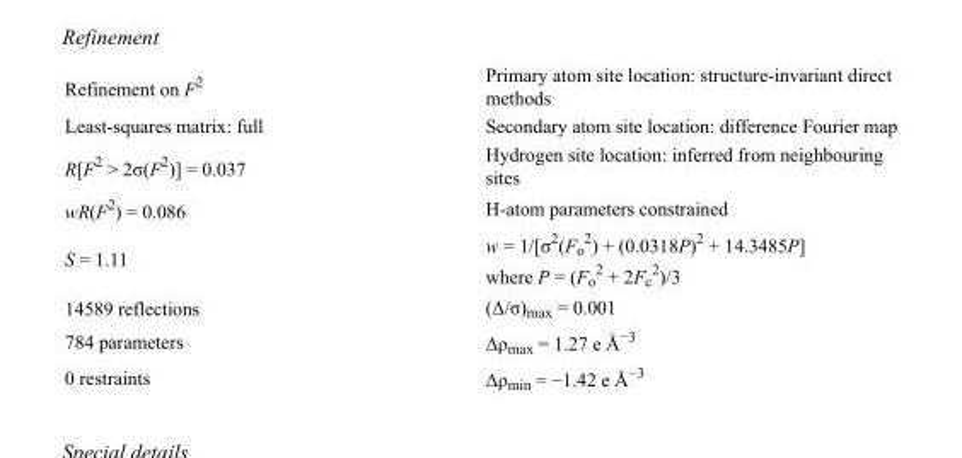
<table><tbody><tr><td>Refinement on F<sup>2</sup></td><td>Primary atom site location: structure-invariant direct methods</td></tr><tr><td>Least-squares matrix: full</td><td>Secondary atom site location: difference Fourier map</td></tr><tr><td>R[F<sup>2</sup> &gt; 2σ(F<sup>2</sup>)] = 0.037</td><td>Hydrogen site location: inferred from neighbouring sites</td></tr><tr><td>wR(F<sup>2</sup>) = 0.086</td><td>H-atom parameters constrained</td></tr><tr><td>S = 1.11</td><td>w = 1/[σ<sup>2</sup>(F<sub>o</sub> <sup>2</sup>) + (0.0318P)<sup>2</sup> + 14.3485P] where P = (F<sub>o</sub> <sup>2</sup> + 2F<sub>c</sub> <sup>2</sup>)/3</td></tr><tr><td>14589 reflections</td><td>(Δ/σ)<sub>max</sub> = 0.001</td></tr><tr><td>784 parameters</td><td>Δρ<sub>max</sub> = 1.27 e Å<sup>−3</sup></td></tr><tr><td>0 restraints</td><td>Δρ<sub>min</sub> = −1.42 e Å<sup>−3</sup></td></tr></tbody></table>